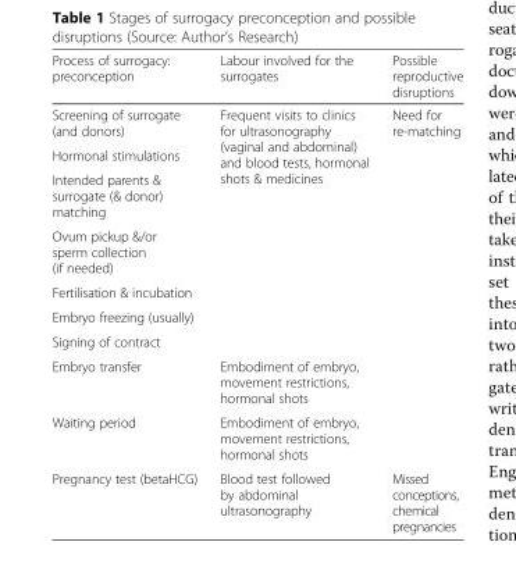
<table><thead><tr><td>Process of surrogacy: preconception</td><td>Labour involved for the surrogates</td><td>Possible reproductive disruptions</td></tr></thead><tbody><tr><td>Screening of surrogate (and donors)</td><td rowspan="7">Frequent visits to clinics for ultrasonography (vaginal and abdominal) and blood tests, hormonal shots &amp; medicines</td><td rowspan="7">Need for re-matching</td></tr><tr><td>Hormonal stimulations</td></tr><tr><td>Intended parents &amp; surrogate (&amp; donor) matching</td></tr><tr><td>Ovum pickup &amp;/or sperm collection (if needed)</td></tr><tr><td>Fertilisation &amp; incubation</td></tr><tr><td>Embryo freezing (usually)</td></tr><tr><td>Signing of contract</td></tr><tr><td>Embryo transfer</td><td>Embodiment of embryo, movement restrictions, hormonal shots</td><td></td></tr><tr><td>Waiting period</td><td>Embodiment of embryo, movement restrictions, hormonal shots</td><td></td></tr><tr><td>Pregnancy test (betaHCG)</td><td>Blood test followed by abdominal ultrasonography</td><td>Missed conceptions, chemical pregnancies</td></tr></tbody></table>